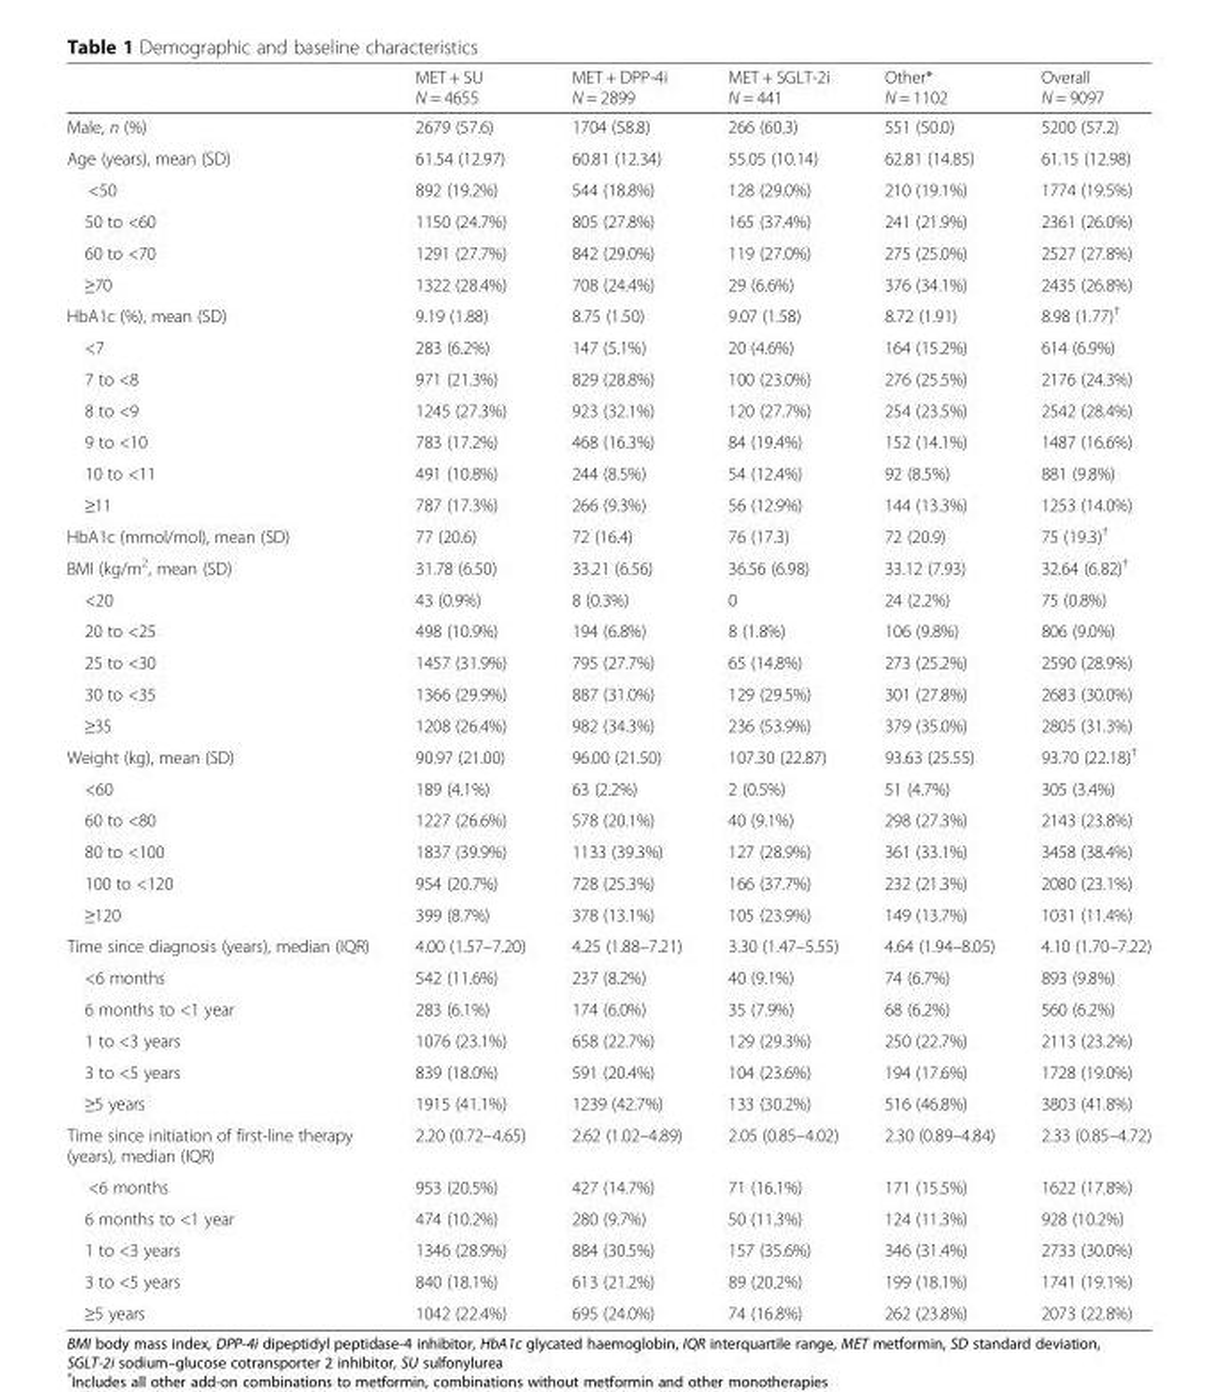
<table><thead><tr><td></td><td>MET + SU N = 4655</td><td>MET + DPP-4i N = 2899</td><td>MET + SGLT-2i N = 441</td><td>Other* N = 1102</td><td>Overall N = 9097</td></tr></thead><tbody><tr><td>Male, n (%)</td><td>2679 (57.6)</td><td>1704 (58.8)</td><td>266 (60.3)</td><td>551 (50.0)</td><td>5200 (57.2)</td></tr><tr><td>Age (years), mean (SD)</td><td>61.54 (12.97)</td><td>60.81 (12.34)</td><td>55.05 (10.14)</td><td>62.81 (14.85)</td><td>61.15 (12.98)</td></tr><tr><td>&lt;50</td><td>892 (19.2%)</td><td>544 (18.8%)</td><td>128 (29.0%)</td><td>210 (19.1%)</td><td>1774 (19.5%)</td></tr><tr><td>50 to &lt;60</td><td>1150 (24.7%)</td><td>805 (27.8%)</td><td>165 (37.4%)</td><td>241 (21.9%)</td><td>2361 (26.0%)</td></tr><tr><td>60 to &lt;70</td><td>1291 (27.7%)</td><td>842 (29.0%)</td><td>119 (27.0%)</td><td>275 (25.0%)</td><td>2527 (27.8%)</td></tr><tr><td>≥70</td><td>1322 (28.4%)</td><td>708 (24.4%)</td><td>29 (6.6%)</td><td>376 (34.1%)</td><td>2435 (26.8%)</td></tr><tr><td>HbA1c (%), mean (SD)</td><td>9.19 (1.88)</td><td>8.75 (1.50)</td><td>9.07 (1.58)</td><td>8.72 (1.91)</td><td>8.98 (1.77)<sup>†</sup></td></tr><tr><td>&lt;7</td><td>283 (6.2%)</td><td>147 (5.1%)</td><td>20 (4.6%)</td><td>164 (15.2%)</td><td>614 (6.9%)</td></tr><tr><td>7 to &lt;8</td><td>971 (21.3%)</td><td>829 (28.8%)</td><td>100 (23.0%)</td><td>276 (25.5%)</td><td>2176 (24.3%)</td></tr><tr><td>8 to &lt;9</td><td>1245 (27.3%)</td><td>923 (32.1%)</td><td>120 (27.7%)</td><td>254 (23.5%)</td><td>2542 (28.4%)</td></tr><tr><td>9 to &lt;10</td><td>783 (17.2%)</td><td>468 (16.3%)</td><td>84 (19.4%)</td><td>152 (14.1%)</td><td>1487 (16.6%)</td></tr><tr><td>10 to &lt;11</td><td>491 (10.8%)</td><td>244 (8.5%)</td><td>54 (12.4%)</td><td>92 (8.5%)</td><td>881 (9.8%)</td></tr><tr><td>≥11</td><td>787 (17.3%)</td><td>266 (9.3%)</td><td>56 (12.9%)</td><td>144 (13.3%)</td><td>1253 (14.0%)</td></tr><tr><td>HbA1c (mmol/mol), mean (SD)</td><td>77 (20.6)</td><td>72 (16.4)</td><td>76 (17.3)</td><td>72 (20.9)</td><td>75 (19.3)<sup>†</sup></td></tr><tr><td>BMI (kg/m<sup>2</sup>, mean (SD)</td><td>31.78 (6.50)</td><td>33.21 (6.56)</td><td>36.56 (6.98)</td><td>33.12 (7.93)</td><td>32.64 (6.82)<sup>†</sup></td></tr><tr><td>&lt;20</td><td>43 (0.9%)</td><td>8 (0.3%)</td><td>0</td><td>24 (2.2%)</td><td>75 (0.8%)</td></tr><tr><td>20 to &lt;25</td><td>498 (10.9%)</td><td>194 (6.8%)</td><td>8 (1.8%)</td><td>106 (9.8%)</td><td>806 (9.0%)</td></tr><tr><td>25 to &lt;30</td><td>1457 (31.9%)</td><td>795 (27.7%)</td><td>65 (14.8%)</td><td>273 (25.2%)</td><td>2590 (28.9%)</td></tr><tr><td>30 to &lt;35</td><td>1366 (29.9%)</td><td>887 (31.0%)</td><td>129 (29.5%)</td><td>301 (27.8%)</td><td>2683 (30.0%)</td></tr><tr><td>≥35</td><td>1208 (26.4%)</td><td>982 (34.3%)</td><td>236 (53.9%)</td><td>379 (35.0%)</td><td>2805 (31.3%)</td></tr><tr><td>Weight (kg), mean (SD)</td><td>90.97 (21.00)</td><td>96.00 (21.50)</td><td>107.30 (22.87)</td><td>93.63 (25.55)</td><td>93.70 (22.18)<sup>†</sup></td></tr><tr><td>&lt;60</td><td>189 (4.1%)</td><td>63 (2.2%)</td><td>2 (0.5%)</td><td>51 (4.7%)</td><td>305 (3.4%)</td></tr><tr><td>60 to &lt;80</td><td>1227 (26.6%)</td><td>578 (20.1%)</td><td>40 (9.1%)</td><td>298 (27.3%)</td><td>2143 (23.8%)</td></tr><tr><td>80 to &lt;100</td><td>1837 (39.9%)</td><td>1133 (39.3%)</td><td>127 (28.9%)</td><td>361 (33.1%)</td><td>3458 (38.4%)</td></tr><tr><td>100 to &lt;120</td><td>954 (20.7%)</td><td>728 (25.3%)</td><td>166 (37.7%)</td><td>232 (21.3%)</td><td>2080 (23.1%)</td></tr><tr><td>≥120</td><td>399 (8.7%)</td><td>378 (13.1%)</td><td>105 (23.9%)</td><td>149 (13.7%)</td><td>1031 (11.4%)</td></tr><tr><td>Time since diagnosis (years), median (IQR)</td><td>4.00 (1.57–7.20)</td><td>4.25 (1.88–7.21)</td><td>3.30 (1.47–5.55)</td><td>4.64 (1.94–8.05)</td><td>4.10 (1.70–7.22)</td></tr><tr><td>&lt;6 months</td><td>542 (11.6%)</td><td>237 (8.2%)</td><td>40 (9.1%)</td><td>74 (6.7%)</td><td>893 (9.8%)</td></tr><tr><td>6 months to &lt;1 year</td><td>283 (6.1%)</td><td>174 (6.0%)</td><td>35 (7.9%)</td><td>68 (6.2%)</td><td>560 (6.2%)</td></tr><tr><td>1 to &lt;3 years</td><td>1076 (23.1%)</td><td>658 (22.7%)</td><td>129 (29.3%)</td><td>250 (22.7%)</td><td>2113 (23.2%)</td></tr><tr><td>3 to &lt;5 years</td><td>839 (18.0%)</td><td>591 (20.4%)</td><td>104 (23.6%)</td><td>194 (17.6%)</td><td>1728 (19.0%)</td></tr><tr><td>≥5 years</td><td>1915 (41.1%)</td><td>1239 (42.7%)</td><td>133 (30.2%)</td><td>516 (46.8%)</td><td>3803 (41.8%)</td></tr><tr><td>Time since initiation of first-line therapy (years), median (IQR)</td><td>2.20 (0.72–4.65)</td><td>2.62 (1.02–4.89)</td><td>2.05 (0.85–4.02)</td><td>2.30 (0.89–4.84)</td><td>2.33 (0.85–4.72)</td></tr><tr><td>&lt;6 months</td><td>953 (20.5%)</td><td>427 (14.7%)</td><td>71 (16.1%)</td><td>171 (15.5%)</td><td>1622 (17.8%)</td></tr><tr><td>6 months to &lt;1 year</td><td>474 (10.2%)</td><td>280 (9.7%)</td><td>50 (11.3%)</td><td>124 (11.3%)</td><td>928 (10.2%)</td></tr><tr><td>1 to &lt;3 years</td><td>1346 (28.9%)</td><td>884 (30.5%)</td><td>157 (35.6%)</td><td>346 (31.4%)</td><td>2733 (30.0%)</td></tr><tr><td>3 to &lt;5 years</td><td>840 (18.1%)</td><td>613 (21.2%)</td><td>89 (20.2%)</td><td>199 (18.1%)</td><td>1741 (19.1%)</td></tr><tr><td>≥5 years</td><td>1042 (22.4%)</td><td>695 (24.0%)</td><td>74 (16.8%)</td><td>262 (23.8%)</td><td>2073 (22.8%)</td></tr></tbody></table>